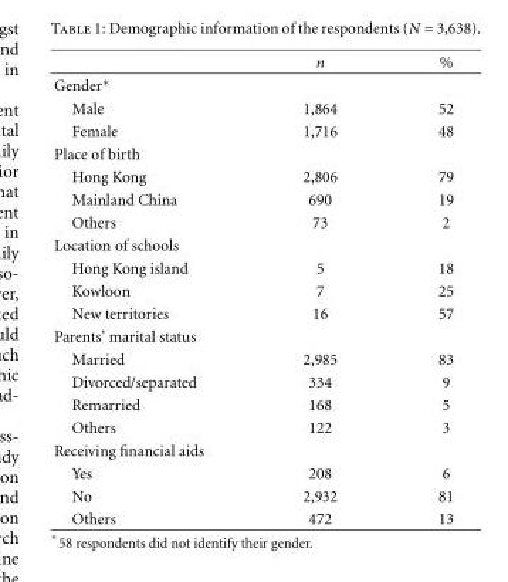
<table><thead><tr><td></td><td>n</td><td>%</td></tr></thead><tbody><tr><td colspan="3">Gender∗</td></tr><tr><td>Male</td><td>1,864</td><td>52</td></tr><tr><td>Female</td><td>1,716</td><td>48</td></tr><tr><td colspan="3">Place of birth</td></tr><tr><td>Hong Kong</td><td>2,806</td><td>79</td></tr><tr><td>Mainland China</td><td>690</td><td>19</td></tr><tr><td>Others</td><td>73</td><td>2</td></tr><tr><td colspan="3">Location of schools</td></tr><tr><td>Hong Kong island</td><td>5</td><td>18</td></tr><tr><td>Kowloon</td><td>7</td><td>25</td></tr><tr><td>New territories</td><td>16</td><td>57</td></tr><tr><td colspan="3">Parents’ marital status</td></tr><tr><td>Married</td><td>2,985</td><td>83</td></tr><tr><td>Divorced/separated</td><td>334</td><td>9</td></tr><tr><td>Remarried</td><td>168</td><td>5</td></tr><tr><td>Others</td><td>122</td><td>3</td></tr><tr><td colspan="3">Receiving financial aids</td></tr><tr><td>Yes</td><td>208</td><td>6</td></tr><tr><td>No</td><td>2,932</td><td>81</td></tr><tr><td>Others</td><td>472</td><td>13</td></tr></tbody></table>